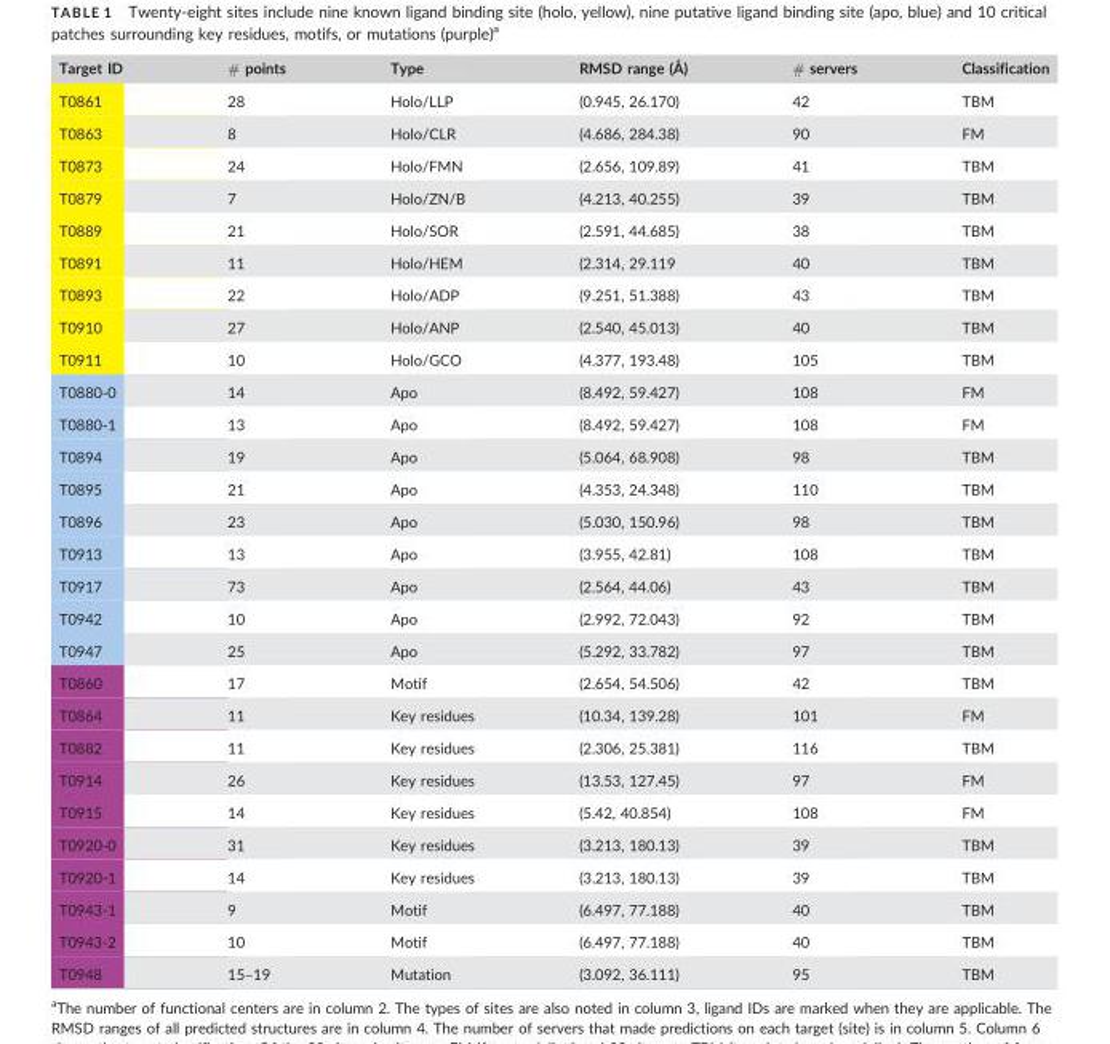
<table><thead><tr><td>Target ID</td><td># points</td><td>Type</td><td>RMSD range (Å)</td><td># servers</td><td>Classification</td></tr></thead><tbody><tr><td>T0861</td><td>28</td><td>Holo/LLP</td><td>(0.945, 26.170)</td><td>42</td><td>TBM</td></tr><tr><td>T0863</td><td>8</td><td>Holo/CLR</td><td>(4.686, 284.38)</td><td>90</td><td>FM</td></tr><tr><td>T0873</td><td>24</td><td>Holo/FMN</td><td>(2.656, 109.89)</td><td>41</td><td>TBM</td></tr><tr><td>T0879</td><td>7</td><td>Holo/ZN/B</td><td>(4.213, 40.255)</td><td>39</td><td>TBM</td></tr><tr><td>T0889</td><td>21</td><td>Holo/SOR</td><td>(2.591, 44.685)</td><td>38</td><td>TBM</td></tr><tr><td>T0891</td><td>11</td><td>Holo/HEM</td><td>(2.314, 29.119</td><td>40</td><td>TBM</td></tr><tr><td>T0893</td><td>22</td><td>Holo/ADP</td><td>(9.251, 51.388)</td><td>43</td><td>TBM</td></tr><tr><td>T0910</td><td>27</td><td>Holo/ANP</td><td>(2.540, 45.013)</td><td>40</td><td>TBM</td></tr><tr><td>T0911</td><td>10</td><td>Holo/GCO</td><td>(4.377, 193.48)</td><td>105</td><td>TBM</td></tr><tr><td>T0880-0</td><td>14</td><td>Apo</td><td>(8.492, 59.427)</td><td>108</td><td>FM</td></tr><tr><td>T0880-1</td><td>13</td><td>Apo</td><td>(8.492, 59.427)</td><td>108</td><td>FM</td></tr><tr><td>T0894</td><td>19</td><td>Apo</td><td>(5.064, 68.908)</td><td>98</td><td>TBM</td></tr><tr><td>T0895</td><td>21</td><td>Apo</td><td>(4.353, 24.348)</td><td>110</td><td>TBM</td></tr><tr><td>T0896</td><td>23</td><td>Apo</td><td>(5.030, 150.96)</td><td>98</td><td>TBM</td></tr><tr><td>T0913</td><td>13</td><td>Apo</td><td>(3.955, 42.81)</td><td>108</td><td>TBM</td></tr><tr><td>T0917</td><td>73</td><td>Apo</td><td>(2.564, 44.06)</td><td>43</td><td>TBM</td></tr><tr><td>T0942</td><td>10</td><td>Apo</td><td>(2.992, 72.043)</td><td>92</td><td>TBM</td></tr><tr><td>T0947</td><td>25</td><td>Apo</td><td>(5.292, 33.782)</td><td>97</td><td>TBM</td></tr><tr><td>T0860</td><td>17</td><td>Motif</td><td>(2.654, 54.506)</td><td>42</td><td>TBM</td></tr><tr><td>T0864</td><td>11</td><td>Key residues</td><td>(10.34, 139.28)</td><td>101</td><td>FM</td></tr><tr><td>T0882</td><td>11</td><td>Key residues</td><td>(2.306, 25.381)</td><td>116</td><td>TBM</td></tr><tr><td>T0914</td><td>26</td><td>Key residues</td><td>(13.53, 127.45)</td><td>97</td><td>FM</td></tr><tr><td>T0915</td><td>14</td><td>Key residues</td><td>(5.42, 40.854)</td><td>108</td><td>FM</td></tr><tr><td>T0920-0</td><td>31</td><td>Key residues</td><td>(3.213, 180.13)</td><td>39</td><td>TBM</td></tr><tr><td>T0920-1</td><td>14</td><td>Key residues</td><td>(3.213, 180.13)</td><td>39</td><td>TBM</td></tr><tr><td>T0943-1</td><td>9</td><td>Motif</td><td>(6.497, 77.188)</td><td>40</td><td>TBM</td></tr><tr><td>T0943-2</td><td>10</td><td>Motif</td><td>(6.497, 77.188)</td><td>40</td><td>TBM</td></tr><tr><td>T0948</td><td>15–19</td><td>Mutation</td><td>(3.092, 36.111)</td><td>95</td><td>TBM</td></tr></tbody></table>